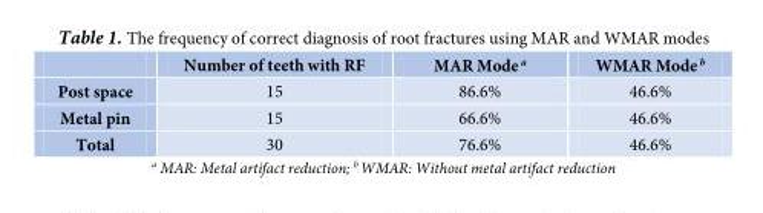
<table><thead><tr><td>WMAR Mode <sup>b</sup></td><td>MAR Mode <sup>a</sup></td><td>Number of teeth with RF</td><td></td></tr></thead><tbody><tr><td>46.6%</td><td>86.6%</td><td>15</td><td>Post space</td></tr><tr><td>46.6%</td><td>66.6%</td><td>15</td><td>Metal pin</td></tr><tr><td>46.6%</td><td>76.6%</td><td>30</td><td>Total</td></tr></tbody></table>